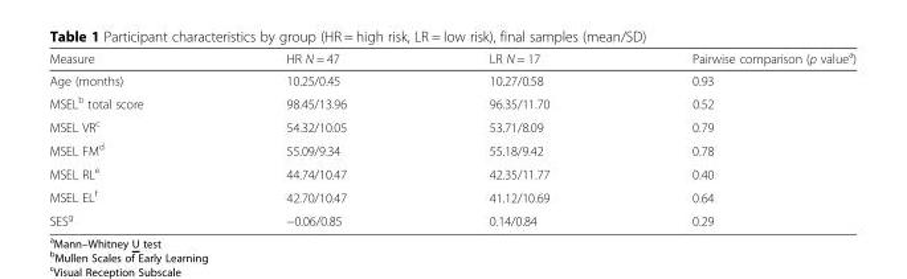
<table><thead><tr><td>Measure</td><td>HR N = 47</td><td>LR N = 17</td><td>Pairwise comparison (p value<sup>a</sup>)</td></tr></thead><tbody><tr><td>Age (months)</td><td>10.25/0.45</td><td>10.27/0.58</td><td>0.93</td></tr><tr><td>MSEL<sup>b</sup> total score</td><td>98.45/13.96</td><td>96.35/11.70</td><td>0.52</td></tr><tr><td>MSEL VR<sup>c</sup></td><td>54.32/10.05</td><td>53.71/8.09</td><td>0.79</td></tr><tr><td>MSEL FM<sup>d</sup></td><td>55.09/9.34</td><td>55.18/9.42</td><td>0.78</td></tr><tr><td>MSEL RL<sup>e</sup></td><td>44.74/10.47</td><td>42.35/11.77</td><td>0.40</td></tr><tr><td>MSEL EL<sup>f</sup></td><td>42.70/10.47</td><td>41.12/10.69</td><td>0.64</td></tr><tr><td>SES<sup>g</sup></td><td>−0.06/0.85</td><td>0.14/0.84</td><td>0.29</td></tr></tbody></table>